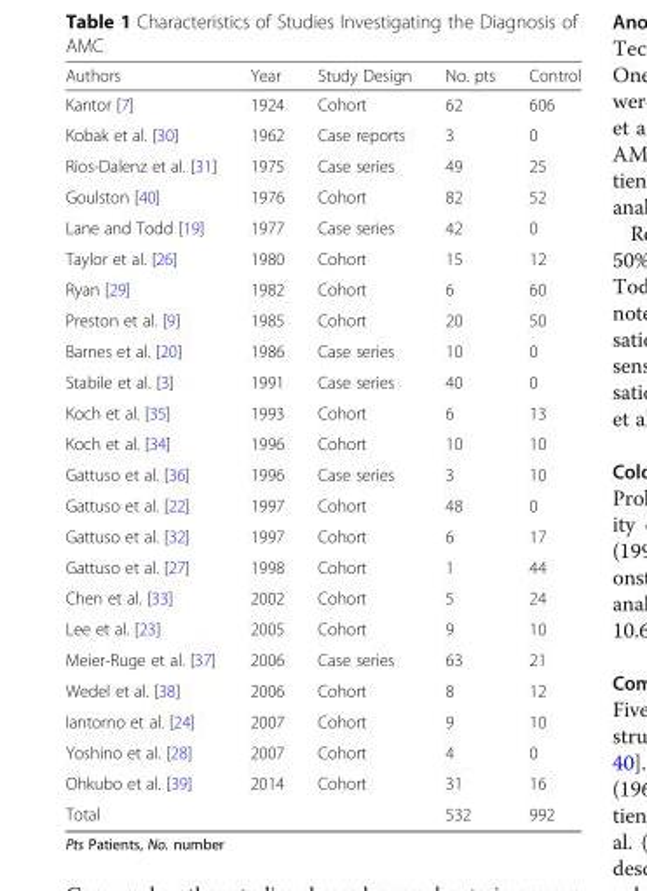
<table><thead><tr><td>Authors</td><td>Year</td><td>Study Design</td><td>No. pts</td><td>Control</td></tr></thead><tbody><tr><td>Kantor [7]</td><td>1924</td><td>Cohort</td><td>62</td><td>606</td></tr><tr><td>Kobak et al. [30]</td><td>1962</td><td>Case reports</td><td>3</td><td>0</td></tr><tr><td>Rios-Dalenz et al. [31]</td><td>1975</td><td>Case series</td><td>49</td><td>25</td></tr><tr><td>Goulston [40]</td><td>1976</td><td>Cohort</td><td>82</td><td>52</td></tr><tr><td>Lane and Todd [19]</td><td>1977</td><td>Case series</td><td>42</td><td>0</td></tr><tr><td>Taylor et al. [26]</td><td>1980</td><td>Cohort</td><td>15</td><td>12</td></tr><tr><td>Ryan [29]</td><td>1982</td><td>Cohort</td><td>6</td><td>60</td></tr><tr><td>Preston et al. [9]</td><td>1985</td><td>Cohort</td><td>20</td><td>50</td></tr><tr><td>Barnes et al. [20]</td><td>1986</td><td>Case series</td><td>10</td><td>0</td></tr><tr><td>Stabile et al. [3]</td><td>1991</td><td>Case series</td><td>40</td><td>0</td></tr><tr><td>Koch et al. [35]</td><td>1993</td><td>Cohort</td><td>6</td><td>13</td></tr><tr><td>Koch et al. [34]</td><td>1996</td><td>Cohort</td><td>10</td><td>10</td></tr><tr><td>Gattuso et al. [36]</td><td>1996</td><td>Case series</td><td>3</td><td>10</td></tr><tr><td>Gattuso et al. [22]</td><td>1997</td><td>Cohort</td><td>48</td><td>0</td></tr><tr><td>Gattuso et al. [32]</td><td>1997</td><td>Cohort</td><td>6</td><td>17</td></tr><tr><td>Gattuso et al. [27]</td><td>1998</td><td>Cohort</td><td>1</td><td>44</td></tr><tr><td>Chen et al. [33]</td><td>2002</td><td>Cohort</td><td>5</td><td>24</td></tr><tr><td>Lee et al. [23]</td><td>2005</td><td>Cohort</td><td>9</td><td>10</td></tr><tr><td>Meier-Ruge et al. [37]</td><td>2006</td><td>Case series</td><td>63</td><td>21</td></tr><tr><td>Wedel et al. [38]</td><td>2006</td><td>Cohort</td><td>8</td><td>12</td></tr><tr><td>Iantorno et al. [24]</td><td>2007</td><td>Cohort</td><td>9</td><td>10</td></tr><tr><td>Yoshino et al. [28]</td><td>2007</td><td>Cohort</td><td>4</td><td>0</td></tr><tr><td>Ohkubo et al. [39]</td><td>2014</td><td>Cohort</td><td>31</td><td>16</td></tr><tr><td>Total</td><td></td><td></td><td>532</td><td>992</td></tr></tbody></table>